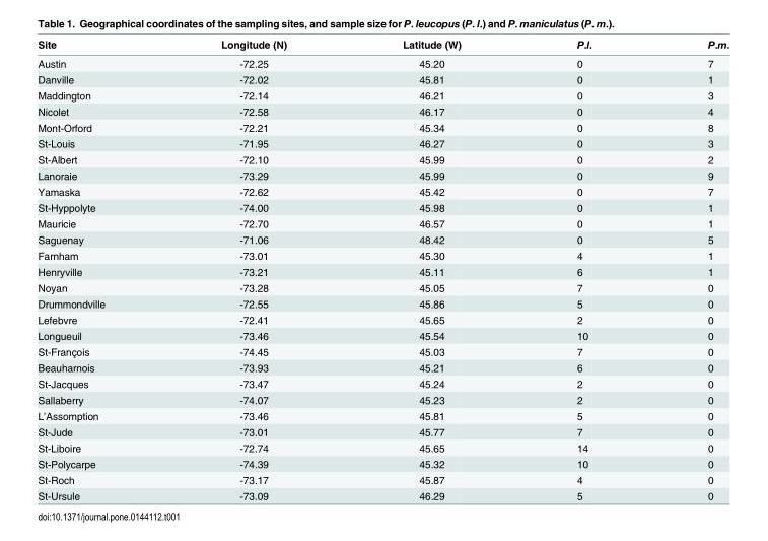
<table><thead><tr><td>Site</td><td>Longitude (N)</td><td>Latitude (W)</td><td>P.l.</td><td>P.m.</td></tr></thead><tbody><tr><td>Austin</td><td>-72.25</td><td>45.20</td><td>0</td><td>7</td></tr><tr><td>Danville</td><td>-72.02</td><td>45.81</td><td>0</td><td>1</td></tr><tr><td>Maddington</td><td>-72.14</td><td>46.21</td><td>0</td><td>3</td></tr><tr><td>Nicolet</td><td>-72.58</td><td>46.17</td><td>0</td><td>4</td></tr><tr><td>Mont-Orford</td><td>-72.21</td><td>45.34</td><td>0</td><td>8</td></tr><tr><td>St-Louis</td><td>-71.95</td><td>46.27</td><td>0</td><td>3</td></tr><tr><td>St-Albert</td><td>-72.10</td><td>45.99</td><td>0</td><td>2</td></tr><tr><td>Lanoraie</td><td>-73.29</td><td>45.99</td><td>0</td><td>9</td></tr><tr><td>Yamaska</td><td>-72.62</td><td>45.42</td><td>0</td><td>7</td></tr><tr><td>St-Hyppolyte</td><td>-74.00</td><td>45.98</td><td>0</td><td>1</td></tr><tr><td>Mauricie</td><td>-72.70</td><td>46.57</td><td>0</td><td>1</td></tr><tr><td>Saguenay</td><td>-71.06</td><td>48.42</td><td>0</td><td>5</td></tr><tr><td>Farnham</td><td>-73.01</td><td>45.30</td><td>4</td><td>1</td></tr><tr><td>Henryville</td><td>-73.21</td><td>45.11</td><td>6</td><td>1</td></tr><tr><td>Noyan</td><td>-73.28</td><td>45.05</td><td>7</td><td>0</td></tr><tr><td>Drummondville</td><td>-72.55</td><td>45.86</td><td>5</td><td>0</td></tr><tr><td>Lefebvre</td><td>-72.41</td><td>45.65</td><td>2</td><td>0</td></tr><tr><td>Longueuil</td><td>-73.46</td><td>45.54</td><td>10</td><td>0</td></tr><tr><td>St-François</td><td>-74.45</td><td>45.03</td><td>7</td><td>0</td></tr><tr><td>Beauharnois</td><td>-73.93</td><td>45.21</td><td>6</td><td>0</td></tr><tr><td>St-Jacques</td><td>-73.47</td><td>45.24</td><td>2</td><td>0</td></tr><tr><td>Sallaberry</td><td>-74.07</td><td>45.23</td><td>2</td><td>0</td></tr><tr><td>L’Assomption</td><td>-73.46</td><td>45.81</td><td>5</td><td>0</td></tr><tr><td>St-Jude</td><td>-73.01</td><td>45.77</td><td>7</td><td>0</td></tr><tr><td>St-Liboire</td><td>-72.74</td><td>45.65</td><td>14</td><td>0</td></tr><tr><td>St-Polycarpe</td><td>-74.39</td><td>45.32</td><td>10</td><td>0</td></tr><tr><td>St-Roch</td><td>-73.17</td><td>45.87</td><td>4</td><td>0</td></tr><tr><td>St-Ursule</td><td>-73.09</td><td>46.29</td><td>5</td><td>0</td></tr></tbody></table>